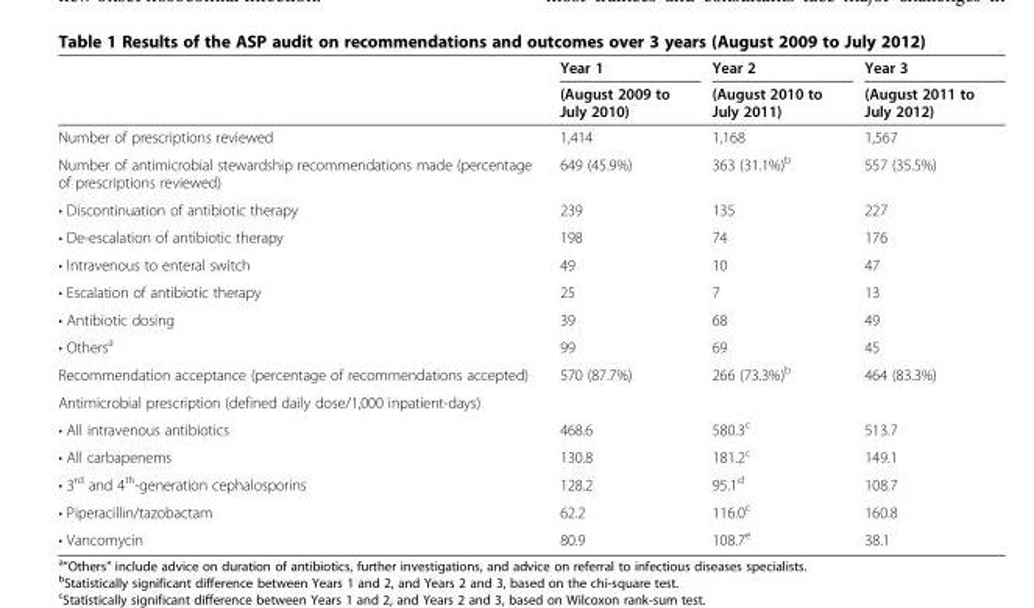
<table><thead><tr><td rowspan="2"></td><td rowspan="2">Year 1 (August 2009 to July 2010)</td><td rowspan="2">Year 2 (August 2010 to July 2011)</td><td rowspan="2">Year 3 (August 2011 to July 2012)</td></tr><tr></tr></thead><tbody><tr><td>Number of prescriptions reviewed</td><td>1,414</td><td>1,168</td><td>1,567</td></tr><tr><td>Number of antimicrobial stewardship recommendations made (percentage of prescriptions reviewed)</td><td>649 (45.9%)</td><td>363 (31.1%)<sup>b</sup></td><td>557 (35.5%)</td></tr><tr><td>• Discontinuation of antibiotic therapy</td><td>239</td><td>135</td><td>227</td></tr><tr><td>• De-escalation of antibiotic therapy</td><td>198</td><td>74</td><td>176</td></tr><tr><td>• Intravenous to enteral switch</td><td>49</td><td>10</td><td>47</td></tr><tr><td>• Escalation of antibiotic therapy</td><td>25</td><td>7</td><td>13</td></tr><tr><td>• Antibiotic dosing</td><td>39</td><td>68</td><td>49</td></tr><tr><td>• Others<sup>a</sup></td><td>99</td><td>69</td><td>45</td></tr><tr><td>Recommendation acceptance (percentage of recommendations accepted)</td><td>570 (87.7%)</td><td>266 (73.3%)<sup>b</sup></td><td>464 (83.3%)</td></tr><tr><td colspan="4">Antimicrobial prescription (defined daily dose/1,000 inpatient-days)</td></tr><tr><td>• All intravenous antibiotics</td><td>468.6</td><td>580.3<sup>c</sup></td><td>513.7</td></tr><tr><td>• All carbapenems</td><td>130.8</td><td>181.2<sup>c</sup></td><td>149.1</td></tr><tr><td>• 3<sup>rd</sup> and 4<sup>th</sup>-generation cephalosporins</td><td>128.2</td><td>95.1<sup>d</sup></td><td>108.7</td></tr><tr><td>• Piperacillin/tazobactam</td><td>62.2</td><td>116.0<sup>c</sup></td><td>160.8</td></tr><tr><td>• Vancomycin</td><td>80.9</td><td>108.7<sup>e</sup></td><td>38.1</td></tr></tbody></table>